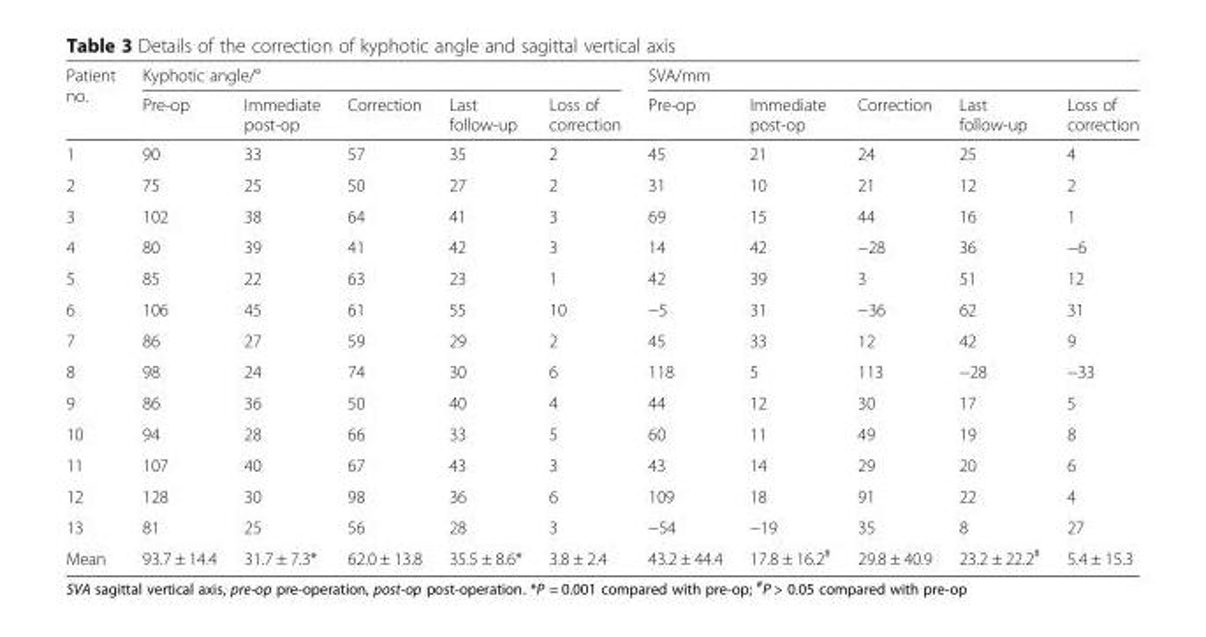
<table><thead><tr><td rowspan="2">Patient no.</td><td colspan="5">Kyphotic angle/°</td><td colspan="5">SVA/mm</td></tr><tr><td>Pre-op</td><td>Immediate post-op</td><td>Correction</td><td>Last follow-up</td><td>Loss of correction</td><td>Pre-op</td><td>Immediate post-op</td><td>Correction</td><td>Last follow-up</td><td>Loss of correction</td></tr></thead><tbody><tr><td>1</td><td>90</td><td>33</td><td>57</td><td>35</td><td>2</td><td>45</td><td>21</td><td>24</td><td>25</td><td>4</td></tr><tr><td>2</td><td>75</td><td>25</td><td>50</td><td>27</td><td>2</td><td>31</td><td>10</td><td>21</td><td>12</td><td>2</td></tr><tr><td>3</td><td>102</td><td>38</td><td>64</td><td>41</td><td>3</td><td>69</td><td>15</td><td>44</td><td>16</td><td>1</td></tr><tr><td>4</td><td>80</td><td>39</td><td>41</td><td>42</td><td>3</td><td>14</td><td>42</td><td>−28</td><td>36</td><td>−6</td></tr><tr><td>5</td><td>85</td><td>22</td><td>63</td><td>23</td><td>1</td><td>42</td><td>39</td><td>3</td><td>51</td><td>12</td></tr><tr><td>6</td><td>106</td><td>45</td><td>61</td><td>55</td><td>10</td><td>−5</td><td>31</td><td>−36</td><td>62</td><td>31</td></tr><tr><td>7</td><td>86</td><td>27</td><td>59</td><td>29</td><td>2</td><td>45</td><td>33</td><td>12</td><td>42</td><td>9</td></tr><tr><td>8</td><td>98</td><td>24</td><td>74</td><td>30</td><td>6</td><td>118</td><td>5</td><td>113</td><td>−28</td><td>−33</td></tr><tr><td>9</td><td>86</td><td>36</td><td>50</td><td>40</td><td>4</td><td>44</td><td>12</td><td>30</td><td>17</td><td>5</td></tr><tr><td>10</td><td>94</td><td>28</td><td>66</td><td>33</td><td>5</td><td>60</td><td>11</td><td>49</td><td>19</td><td>8</td></tr><tr><td>11</td><td>107</td><td>40</td><td>67</td><td>43</td><td>3</td><td>43</td><td>14</td><td>29</td><td>20</td><td>6</td></tr><tr><td>12</td><td>128</td><td>30</td><td>98</td><td>36</td><td>6</td><td>109</td><td>18</td><td>91</td><td>22</td><td>4</td></tr><tr><td>13</td><td>81</td><td>25</td><td>56</td><td>28</td><td>3</td><td>−54</td><td>−19</td><td>35</td><td>8</td><td>27</td></tr><tr><td>Mean</td><td>93.7 ± 14.4</td><td>31.7 ± 7.3*</td><td>62.0 ± 13.8</td><td>35.5 ± 8.6*</td><td>3.8 ± 2.4</td><td>43.2 ± 44.4</td><td>17.8 ± 16.2<sup>#</sup></td><td>29.8 ± 40.9</td><td>23.2 ± 22.2<sup>#</sup></td><td>5.4 ± 15.3</td></tr></tbody></table>